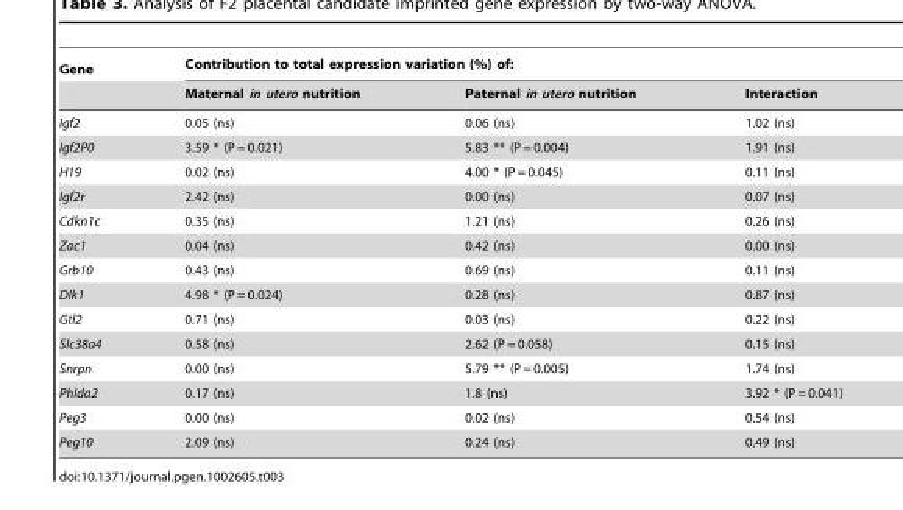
<table><thead><tr><td rowspan="2">Gene</td><td colspan="3">Contribution to total expression variation (%) of:</td></tr><tr><td>Maternal in utero nutrition</td><td>Paternal in utero nutrition</td><td>Interaction</td></tr></thead><tbody><tr><td>Igf2</td><td>0.05 (ns)</td><td>0.06 (ns)</td><td>1.02 (ns)</td></tr><tr><td>Igf2P0</td><td>3.59 * (P = 0.021)</td><td>5.83 ** (P = 0.004)</td><td>1.91 (ns)</td></tr><tr><td>H19</td><td>0.02 (ns)</td><td>4.00 * (P = 0.045)</td><td>0.11 (ns)</td></tr><tr><td>Igf2r</td><td>2.42 (ns)</td><td>0.00 (ns)</td><td>0.07 (ns)</td></tr><tr><td>Cdkn1c</td><td>0.35 (ns)</td><td>1.21 (ns)</td><td>0.26 (ns)</td></tr><tr><td>Zac1</td><td>0.04 (ns)</td><td>0.42 (ns)</td><td>0.00 (ns)</td></tr><tr><td>Grb10</td><td>0.43 (ns)</td><td>0.69 (ns)</td><td>0.11 (ns)</td></tr><tr><td>Dlk1</td><td>4.98 * (P = 0.024)</td><td>0.28 (ns)</td><td>0.87 (ns)</td></tr><tr><td>Gtl2</td><td>0.71 (ns)</td><td>0.03 (ns)</td><td>0.22 (ns)</td></tr><tr><td>Slc38a4</td><td>0.58 (ns)</td><td>2.62 (P = 0.058)</td><td>0.15 (ns)</td></tr><tr><td>Snrpn</td><td>0.00 (ns)</td><td>5.79 ** (P = 0.005)</td><td>1.74 (ns)</td></tr><tr><td>Phlda2</td><td>0.17 (ns)</td><td>1.8 (ns)</td><td>3.92 * (P = 0.041)</td></tr><tr><td>Peg3</td><td>0.00 (ns)</td><td>0.02 (ns)</td><td>0.54 (ns)</td></tr><tr><td>Peg10</td><td>2.09 (ns)</td><td>0.24 (ns)</td><td>0.49 (ns)</td></tr></tbody></table>